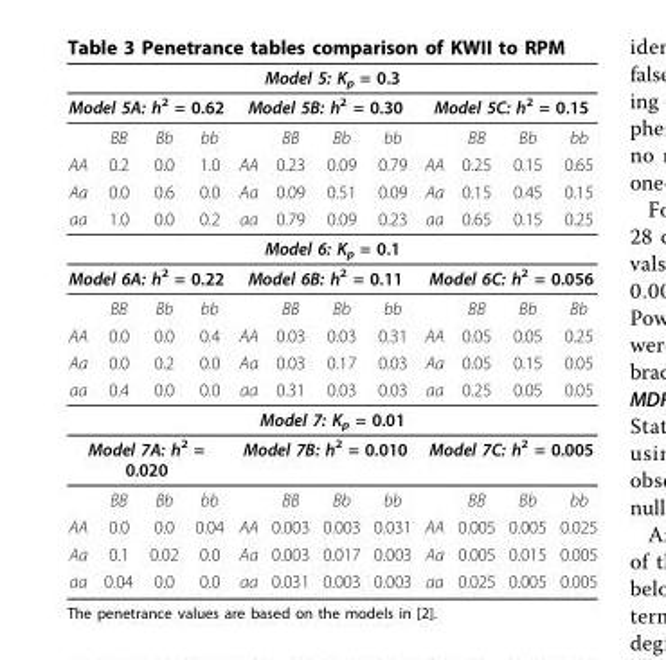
<table><thead><tr><td colspan="12">Model 5: K<sub>p</sub> = 0.3</td></tr><tr><td colspan="4">Model 5A: h<sup>2</sup> = 0.62</td><td colspan="4">Model 5B: h<sup>2</sup> = 0.30</td><td colspan="4">Model 5C: h<sup>2</sup> = 0.15</td></tr><tr><td></td><td>BB</td><td>Bb</td><td>bb</td><td></td><td>BB</td><td>Bb</td><td>bb</td><td></td><td>BB</td><td>Bb</td><td>bb</td></tr></thead><tbody><tr><td>AA</td><td>0.2</td><td>0.0</td><td>1.0</td><td>AA</td><td>0.23</td><td>0.09</td><td>0.79</td><td>AA</td><td>0.25</td><td>0.15</td><td>0.65</td></tr><tr><td>Aa</td><td>0.0</td><td>0.6</td><td>0.0</td><td>Aa</td><td>0.09</td><td>0.51</td><td>0.09</td><td>Aa</td><td>0.15</td><td>0.45</td><td>0.15</td></tr><tr><td>aa</td><td>1.0</td><td>0.0</td><td>0.2</td><td>aa</td><td>0.79</td><td>0.09</td><td>0.23</td><td>aa</td><td>0.65</td><td>0.15</td><td>0.25</td></tr><tr><td colspan="12">Model 6: K<sub>p</sub> = 0.1</td></tr><tr><td colspan="4">Model 6A: h<sup>2</sup> = 0.22</td><td colspan="4">Model 6B: h<sup>2</sup> = 0.11</td><td colspan="4">Model 6C: h<sup>2</sup> = 0.056</td></tr><tr><td></td><td>BB</td><td>Bb</td><td>bb</td><td></td><td>BB</td><td>Bb</td><td>bb</td><td></td><td>BB</td><td>Bb</td><td>Bb</td></tr><tr><td>AA</td><td>0.0</td><td>0.0</td><td>0.4</td><td>AA</td><td>0.03</td><td>0.03</td><td>0.31</td><td>AA</td><td>0.05</td><td>0.05</td><td>0.25</td></tr><tr><td>Aa</td><td>0.0</td><td>0.2</td><td>0.0</td><td>Aa</td><td>0.03</td><td>0.17</td><td>0.03</td><td>Aa</td><td>0.05</td><td>0.15</td><td>0.05</td></tr><tr><td>aa</td><td>0.4</td><td>0.0</td><td>0.0</td><td>aa</td><td>0.31</td><td>0.03</td><td>0.03</td><td>aa</td><td>0.25</td><td>0.05</td><td>0.05</td></tr><tr><td colspan="12">Model 7: K<sub>p</sub> = 0.01</td></tr><tr><td colspan="4">Model 7A: h<sup>2</sup> = 0.020</td><td colspan="4">Model 7B: h<sup>2</sup> = 0.010</td><td colspan="4">Model 7C: h<sup>2</sup> = 0.005</td></tr><tr><td></td><td>BB</td><td>Bb</td><td>bb</td><td></td><td>BB</td><td>Bb</td><td>bb</td><td></td><td>BB</td><td>Bb</td><td>bb</td></tr><tr><td>AA</td><td>0.0</td><td>0.0</td><td>0.04</td><td>AA</td><td>0.003</td><td>0.003</td><td>0.031</td><td>AA</td><td>0.005</td><td>0.005</td><td>0.025</td></tr><tr><td>Aa</td><td>0.1</td><td>0.02</td><td>0.0</td><td>Aa</td><td>0.003</td><td>0.017</td><td>0.003</td><td>Aa</td><td>0.005</td><td>0.015</td><td>0.005</td></tr><tr><td>aa</td><td>0.04</td><td>0.0</td><td>0.0</td><td>aa</td><td>0.031</td><td>0.003</td><td>0.003</td><td>aa</td><td>0.025</td><td>0.005</td><td>0.005</td></tr></tbody></table>